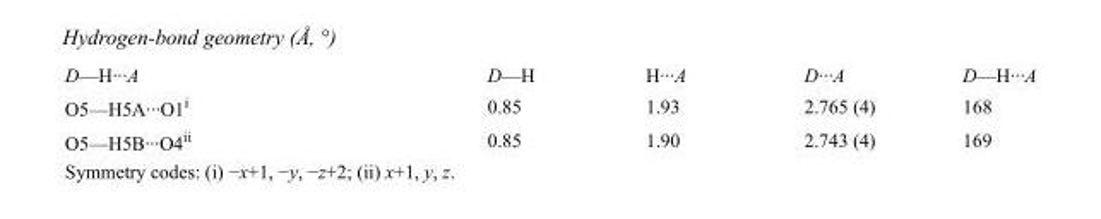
<table><tbody><tr><td>D—H···A</td><td>D—H</td><td>H···A</td><td>D···A</td><td>D—H···A</td></tr><tr><td>O5—H5A···O1<sup>i</sup></td><td>0.85</td><td>1.93</td><td>2.765 (4)</td><td>168</td></tr><tr><td>O5—H5B···O4<sup>ii</sup></td><td>0.85</td><td>1.90</td><td>2.743 (4)</td><td>169</td></tr></tbody></table>